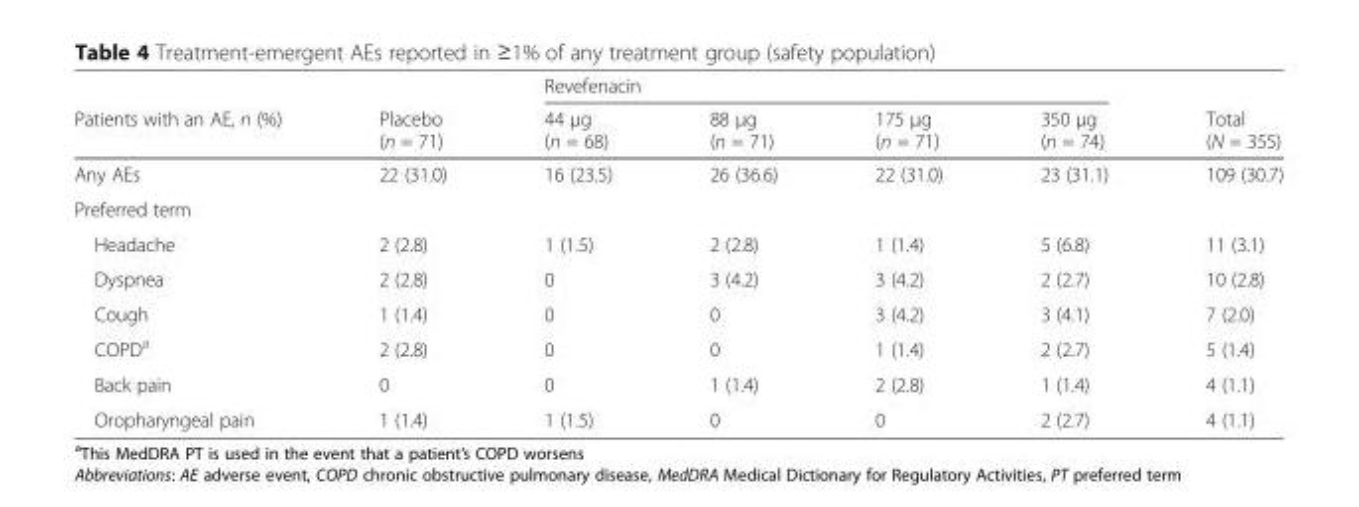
<table><thead><tr><td rowspan="2">Patients with an AE, n (%)</td><td rowspan="2">Placebo (n = 71)</td><td colspan="4">Revefenacin</td><td rowspan="2">Total (N = 355)</td></tr><tr><td>44 μg (n = 68)</td><td>88 μg (n = 71)</td><td>175 μg (n = 71)</td><td>350 μg (n = 74)</td></tr></thead><tbody><tr><td>Any AEs</td><td>22 (31.0)</td><td>16 (23.5)</td><td>26 (36.6)</td><td>22 (31.0)</td><td>23 (31.1)</td><td>109 (30.7)</td></tr><tr><td colspan="7">Preferred term</td></tr><tr><td>Headache</td><td>2 (2.8)</td><td>1 (1.5)</td><td>2 (2.8)</td><td>1 (1.4)</td><td>5 (6.8)</td><td>11 (3.1)</td></tr><tr><td>Dyspnea</td><td>2 (2.8)</td><td>0</td><td>3 (4.2)</td><td>3 (4.2)</td><td>2 (2.7)</td><td>10 (2.8)</td></tr><tr><td>Cough</td><td>1 (1.4)</td><td>0</td><td>0</td><td>3 (4.2)</td><td>3 (4.1)</td><td>7 (2.0)</td></tr><tr><td>COPD<sup>a</sup></td><td>2 (2.8)</td><td>0</td><td>0</td><td>1 (1.4)</td><td>2 (2.7)</td><td>5 (1.4)</td></tr><tr><td>Back pain</td><td>0</td><td>0</td><td>1 (1.4)</td><td>2 (2.8)</td><td>1 (1.4)</td><td>4 (1.1)</td></tr><tr><td>Oropharyngeal pain</td><td>1 (1.4)</td><td>1 (1.5)</td><td>0</td><td>0</td><td>2 (2.7)</td><td>4 (1.1)</td></tr></tbody></table>